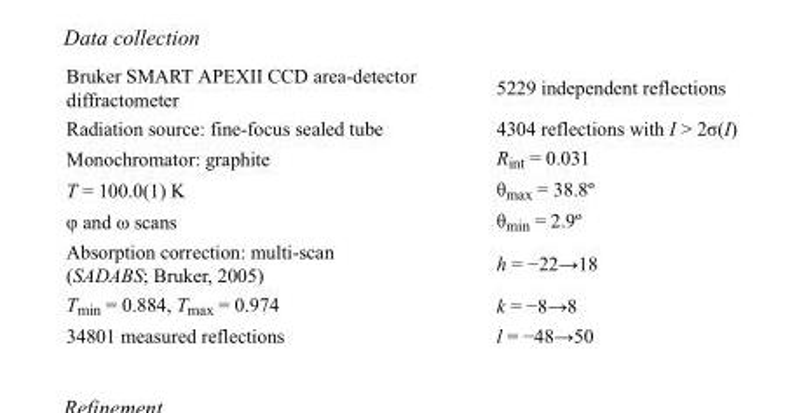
<table><tbody><tr><td>Bruker SMART APEXII CCD area-detector diffractometer</td><td>5229 independent reflections</td></tr><tr><td>Radiation source: fine-focus sealed tube</td><td>4304 reflections with I &gt; 2σ(I)</td></tr><tr><td>Monochromator: graphite</td><td>R<sub>int</sub> = 0.031</td></tr><tr><td>T = 100.0(1) K</td><td>θ<sub>max</sub> = 38.8º</td></tr><tr><td>φ and ω scans</td><td>θ<sub>min</sub> = 2.9º</td></tr><tr><td>Absorption correction: multi-scan (SADABS; Bruker, 2005)</td><td>h = −22→18</td></tr><tr><td>T<sub>min</sub> = 0.884, T<sub>max</sub> = 0.974</td><td>k = −8→8</td></tr><tr><td>34801 measured reflections</td><td>l = −48→50</td></tr></tbody></table>